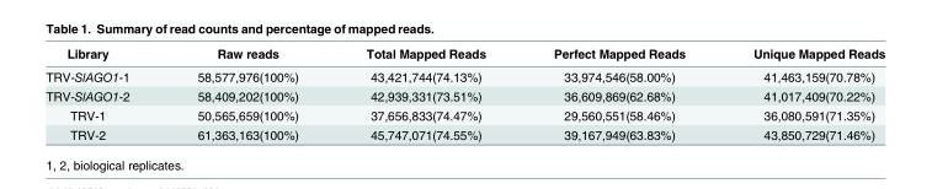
<table><thead><tr><td>Library</td><td>Raw reads</td><td>Total Mapped Reads</td><td>Perfect Mapped Reads</td><td>Unique Mapped Reads</td></tr></thead><tbody><tr><td>TRV-SlAGO1-1</td><td>58,577,976(100%)</td><td>43,421,744(74.13%)</td><td>33,974,546(58.00%)</td><td>41,463,159(70.78%)</td></tr><tr><td>TRV-SlAGO1-2</td><td>58,409,202(100%)</td><td>42,939,331(73.51%)</td><td>36,609,869(62.68%)</td><td>41,017,409(70.22%)</td></tr><tr><td>TRV-1</td><td>50,565,659(100%)</td><td>37,656,833(74.47%)</td><td>29,560,551(58.46%)</td><td>36,080,591(71.35%)</td></tr><tr><td>TRV-2</td><td>61,363,163(100%)</td><td>45,747,071(74.55%)</td><td>39,167,949(63.83%)</td><td>43,850,729(71.46%)</td></tr></tbody></table>